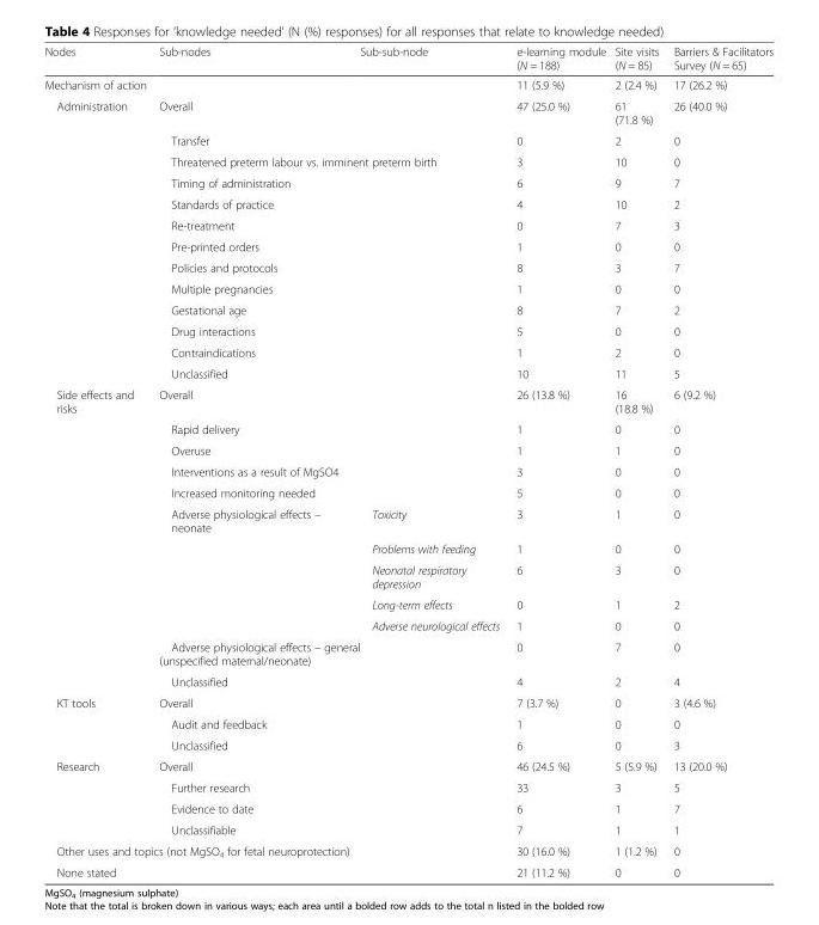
<table><thead><tr><td>Nodes</td><td>Sub-nodes</td><td>Sub-sub-node</td><td>e-learning module (N = 188)</td><td>Site visits (N = 85)</td><td>Barriers &amp; Facilitators Survey (N = 65)</td></tr></thead><tbody><tr><td colspan="3">Mechanism of action</td><td>11 (5.9 %)</td><td>2 (2.4 %)</td><td>17 (26.2 %)</td></tr><tr><td rowspan="13">Administration</td><td colspan="2">Overall</td><td>47 (25.0 %)</td><td>61 (71.8 %)</td><td>26 (40.0 %)</td></tr><tr><td colspan="2">Transfer</td><td>0</td><td>2</td><td>0</td></tr><tr><td colspan="2">Threatened preterm labour vs. imminent preterm birth</td><td>3</td><td>10</td><td>0</td></tr><tr><td colspan="2">Timing of administration</td><td>6</td><td>9</td><td>7</td></tr><tr><td colspan="2">Standards of practice</td><td>4</td><td>10</td><td>2</td></tr><tr><td colspan="2">Re-treatment</td><td>0</td><td>7</td><td>3</td></tr><tr><td colspan="2">Pre-printed orders</td><td>1</td><td>0</td><td>0</td></tr><tr><td colspan="2">Policies and protocols</td><td>8</td><td>3</td><td>7</td></tr><tr><td colspan="2">Multiple pregnancies</td><td>1</td><td>0</td><td>0</td></tr><tr><td colspan="2">Gestational age</td><td>8</td><td>7</td><td>2</td></tr><tr><td colspan="2">Drug interactions</td><td>5</td><td>0</td><td>0</td></tr><tr><td colspan="2">Contraindications</td><td>1</td><td>2</td><td>0</td></tr><tr><td colspan="2">Unclassified</td><td>10</td><td>11</td><td>5</td></tr><tr><td rowspan="12">Side effects and risks</td><td colspan="2">Overall</td><td>26 (13.8 %)</td><td>16 (18.8 %)</td><td>6 (9.2 %)</td></tr><tr><td colspan="2">Rapid delivery</td><td>1</td><td>0</td><td>0</td></tr><tr><td colspan="2">Overuse</td><td>1</td><td>1</td><td>0</td></tr><tr><td colspan="2">Interventions as a result of MgSO4</td><td>3</td><td>0</td><td>0</td></tr><tr><td colspan="2">Increased monitoring needed</td><td>5</td><td>0</td><td>0</td></tr><tr><td>Adverse physiological effects – neonate</td><td>Toxicity</td><td>3</td><td>1</td><td>0</td></tr><tr><td></td><td>Problems with feeding</td><td>1</td><td>0</td><td>0</td></tr><tr><td></td><td>Neonatal respiratory depression</td><td>6</td><td>3</td><td>0</td></tr><tr><td></td><td>Long-term effects</td><td>0</td><td>1</td><td>2</td></tr><tr><td></td><td>Adverse neurological effects</td><td>1</td><td>0</td><td>0</td></tr><tr><td colspan="2">Adverse physiological effects – general (unspecified maternal/neonate)</td><td>0</td><td>7</td><td>0</td></tr><tr><td colspan="2">Unclassified</td><td>4</td><td>2</td><td>4</td></tr><tr><td rowspan="3">KT tools</td><td colspan="2">Overall</td><td>7 (3.7 %)</td><td>0</td><td>3 (4.6 %)</td></tr><tr><td colspan="2">Audit and feedback</td><td>1</td><td>0</td><td>0</td></tr><tr><td colspan="2">Unclassified</td><td>6</td><td>0</td><td>3</td></tr><tr><td rowspan="4">Research</td><td colspan="2">Overall</td><td>46 (24.5 %)</td><td>5 (5.9 %)</td><td>13 (20.0 %)</td></tr><tr><td colspan="2">Further research</td><td>33</td><td>3</td><td>5</td></tr><tr><td colspan="2">Evidence to date</td><td>6</td><td>1</td><td>7</td></tr><tr><td colspan="2">Unclassifiable</td><td>7</td><td>1</td><td>1</td></tr><tr><td colspan="3">Other uses and topics (not MgSO<sub>4</sub> for fetal neuroprotection)</td><td>30 (16.0 %)</td><td>1 (1.2 %)</td><td>0</td></tr><tr><td colspan="3">None stated</td><td>21 (11.2 %)</td><td>0</td><td>0</td></tr></tbody></table>